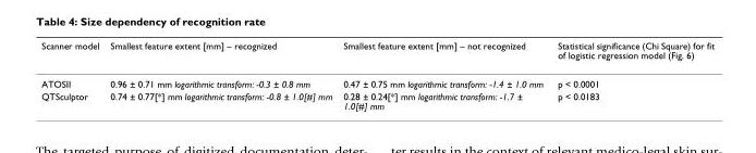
<table><thead><tr><td>Scanner model</td><td>Smallest feature extent [mm] – recognized</td><td>Smallest feature extent [mm] – not recognized</td><td>Statistical significance (Chi Square) for fit of logistic regression model (Fig. 6)</td></tr></thead><tbody><tr><td>ATOSII</td><td>0.96 ± 0.71 mm logarithmic transform: -0.3 ± 0.8 mm</td><td>0.47 ± 0.75 mm logarithmic transform: -1.4 ± 1.0 mm</td><td>p &lt; 0.0001</td></tr><tr><td>QTSculptor</td><td>0.74 ± 0.77[*] mm logarithmic transform: -0.8 ± 1.0[#] mm</td><td>0.28 ± 0.24[*] mm logarithmic transform: -1.7 ± 1.0[#] mm</td><td>p &lt; 0.0183</td></tr></tbody></table>